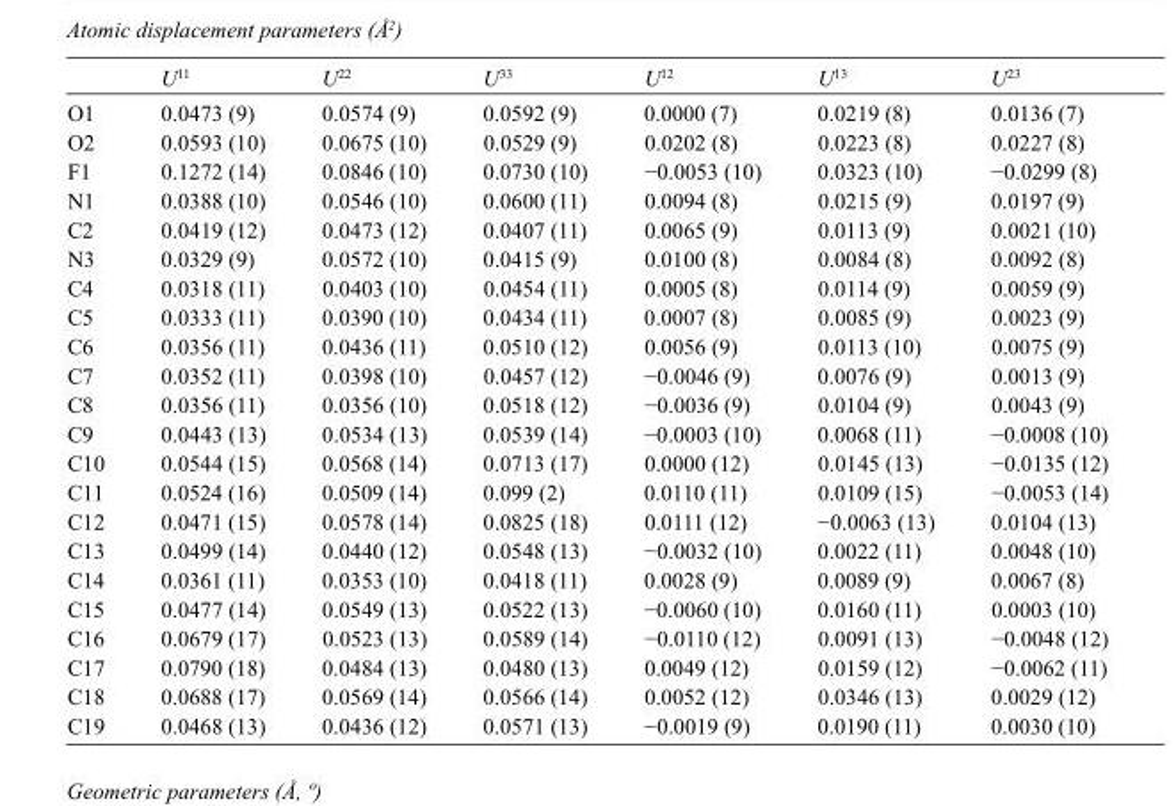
<table><thead><tr><td></td><td>U<sup>11</sup></td><td>U<sup>22</sup></td><td>U<sup>33</sup></td><td>U<sup>12</sup></td><td>U<sup>13</sup></td><td>U<sup>23</sup></td></tr></thead><tbody><tr><td>O1</td><td>0.0473 (9)</td><td>0.0574 (9)</td><td>0.0592 (9)</td><td>0.0000 (7)</td><td>0.0219 (8)</td><td>0.0136 (7)</td></tr><tr><td>O2</td><td>0.0593 (10)</td><td>0.0675 (10)</td><td>0.0529 (9)</td><td>0.0202 (8)</td><td>0.0223 (8)</td><td>0.0227 (8)</td></tr><tr><td>F1</td><td>0.1272 (14)</td><td>0.0846 (10)</td><td>0.0730 (10)</td><td>−0.0053 (10)</td><td>0.0323 (10)</td><td>−0.0299 (8)</td></tr><tr><td>N1</td><td>0.0388 (10)</td><td>0.0546 (10)</td><td>0.0600 (11)</td><td>0.0094 (8)</td><td>0.0215 (9)</td><td>0.0197 (9)</td></tr><tr><td>C2</td><td>0.0419 (12)</td><td>0.0473 (12)</td><td>0.0407 (11)</td><td>0.0065 (9)</td><td>0.0113 (9)</td><td>0.0021 (10)</td></tr><tr><td>N3</td><td>0.0329 (9)</td><td>0.0572 (10)</td><td>0.0415 (9)</td><td>0.0100 (8)</td><td>0.0084 (8)</td><td>0.0092 (8)</td></tr><tr><td>C4</td><td>0.0318 (11)</td><td>0.0403 (10)</td><td>0.0454 (11)</td><td>0.0005 (8)</td><td>0.0114 (9)</td><td>0.0059 (9)</td></tr><tr><td>C5</td><td>0.0333 (11)</td><td>0.0390 (10)</td><td>0.0434 (11)</td><td>0.0007 (8)</td><td>0.0085 (9)</td><td>0.0023 (9)</td></tr><tr><td>C6</td><td>0.0356 (11)</td><td>0.0436 (11)</td><td>0.0510 (12)</td><td>0.0056 (9)</td><td>0.0113 (10)</td><td>0.0075 (9)</td></tr><tr><td>C7</td><td>0.0352 (11)</td><td>0.0398 (10)</td><td>0.0457 (12)</td><td>−0.0046 (9)</td><td>0.0076 (9)</td><td>0.0013 (9)</td></tr><tr><td>C8</td><td>0.0356 (11)</td><td>0.0356 (10)</td><td>0.0518 (12)</td><td>−0.0036 (9)</td><td>0.0104 (9)</td><td>0.0043 (9)</td></tr><tr><td>C9</td><td>0.0443 (13)</td><td>0.0534 (13)</td><td>0.0539 (14)</td><td>−0.0003 (10)</td><td>0.0068 (11)</td><td>−0.0008 (10)</td></tr><tr><td>C10</td><td>0.0544 (15)</td><td>0.0568 (14)</td><td>0.0713 (17)</td><td>0.0000 (12)</td><td>0.0145 (13)</td><td>−0.0135 (12)</td></tr><tr><td>C11</td><td>0.0524 (16)</td><td>0.0509 (14)</td><td>0.099 (2)</td><td>0.0110 (11)</td><td>0.0109 (15)</td><td>−0.0053 (14)</td></tr><tr><td>C12</td><td>0.0471 (15)</td><td>0.0578 (14)</td><td>0.0825 (18)</td><td>0.0111 (12)</td><td>−0.0063 (13)</td><td>0.0104 (13)</td></tr><tr><td>C13</td><td>0.0499 (14)</td><td>0.0440 (12)</td><td>0.0548 (13)</td><td>−0.0032 (10)</td><td>0.0022 (11)</td><td>0.0048 (10)</td></tr><tr><td>C14</td><td>0.0361 (11)</td><td>0.0353 (10)</td><td>0.0418 (11)</td><td>0.0028 (9)</td><td>0.0089 (9)</td><td>0.0067 (8)</td></tr><tr><td>C15</td><td>0.0477 (14)</td><td>0.0549 (13)</td><td>0.0522 (13)</td><td>−0.0060 (10)</td><td>0.0160 (11)</td><td>0.0003 (10)</td></tr><tr><td>C16</td><td>0.0679 (17)</td><td>0.0523 (13)</td><td>0.0589 (14)</td><td>−0.0110 (12)</td><td>0.0091 (13)</td><td>−0.0048 (12)</td></tr><tr><td>C17</td><td>0.0790 (18)</td><td>0.0484 (13)</td><td>0.0480 (13)</td><td>0.0049 (12)</td><td>0.0159 (12)</td><td>−0.0062 (11)</td></tr><tr><td>C18</td><td>0.0688 (17)</td><td>0.0569 (14)</td><td>0.0566 (14)</td><td>0.0052 (12)</td><td>0.0346 (13)</td><td>0.0029 (12)</td></tr><tr><td>C19</td><td>0.0468 (13)</td><td>0.0436 (12)</td><td>0.0571 (13)</td><td>−0.0019 (9)</td><td>0.0190 (11)</td><td>0.0030 (10)</td></tr></tbody></table>